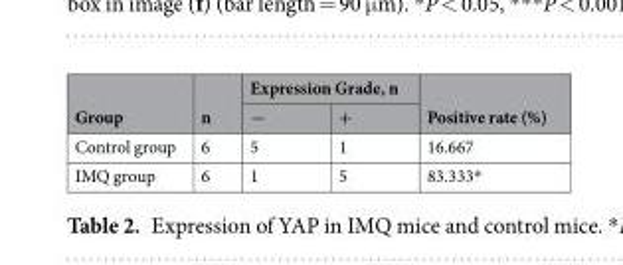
<table><thead><tr><td rowspan="2">Group</td><td rowspan="2">n</td><td colspan="2">Expression Grade, n</td><td rowspan="2">Positive rate (%)</td></tr><tr><td>−</td><td>+</td></tr></thead><tbody><tr><td>Control group</td><td>6</td><td>5</td><td>1</td><td>16.667</td></tr><tr><td>IMQ group</td><td>6</td><td>1</td><td>5</td><td>83.333*</td></tr></tbody></table>